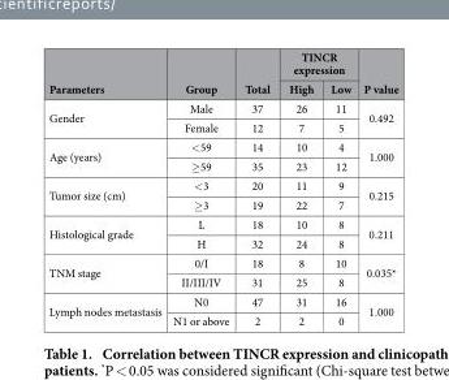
<table><thead><tr><td rowspan="2">Parameters</td><td rowspan="2">Group</td><td rowspan="2">Total</td><td colspan="2">TINCR expression</td><td rowspan="2">P value</td></tr><tr><td>High</td><td>Low</td></tr></thead><tbody><tr><td rowspan="2">Gender</td><td>Male</td><td>37</td><td>26</td><td>11</td><td rowspan="2">0.492</td></tr><tr><td>Female</td><td>12</td><td>7</td><td>5</td></tr><tr><td rowspan="2">Age (years)</td><td>&lt; 59</td><td>14</td><td>10</td><td>4</td><td rowspan="2">1.000</td></tr><tr><td>≥ 59</td><td>35</td><td>23</td><td>12</td></tr><tr><td rowspan="2">Tumor size (cm)</td><td>&lt; 3</td><td>20</td><td>11</td><td>9</td><td rowspan="2">0.215</td></tr><tr><td>≥ 3</td><td>19</td><td>22</td><td>7</td></tr><tr><td rowspan="2">Histological grade</td><td>L</td><td>18</td><td>10</td><td>8</td><td rowspan="2">0.211</td></tr><tr><td>H</td><td>32</td><td>24</td><td>8</td></tr><tr><td rowspan="2">TNM stage</td><td>0/I</td><td>18</td><td>8</td><td>10</td><td rowspan="2">0.035*</td></tr><tr><td>II/III/IV</td><td>31</td><td>25</td><td>8</td></tr><tr><td rowspan="2">Lymph nodes metastasis</td><td>N0</td><td>47</td><td>31</td><td>16</td><td rowspan="2">1.000</td></tr><tr><td>N1 or above</td><td>2</td><td>2</td><td>0</td></tr></tbody></table>